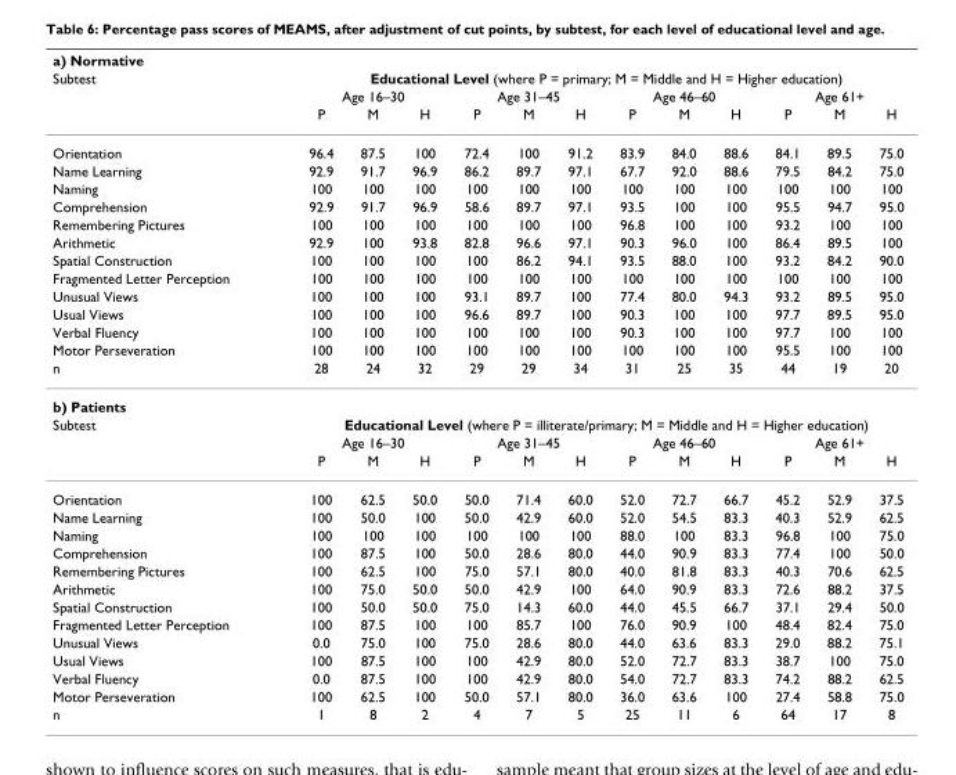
<table><thead><tr><td colspan="13">a) Normative</td></tr><tr><td rowspan="3">Subtest</td><td colspan="12">Educational Level (where P = primary; M = Middle and H = Higher education)</td></tr><tr><td colspan="3">Age 16–30</td><td colspan="3">Age 31–45</td><td colspan="3">Age 46–60</td><td colspan="3">Age 61+</td></tr><tr><td>P</td><td>M</td><td>H</td><td>P</td><td>M</td><td>H</td><td>P</td><td>M</td><td>H</td><td>P</td><td>M</td><td>H</td></tr></thead><tbody><tr><td>Orientation</td><td>96.4</td><td>87.5</td><td>100</td><td>72.4</td><td>100</td><td>91.2</td><td>83.9</td><td>84.0</td><td>88.6</td><td>84.1</td><td>89.5</td><td>75.0</td></tr><tr><td>Name Learning</td><td>92.9</td><td>91.7</td><td>96.9</td><td>86.2</td><td>89.7</td><td>97.1</td><td>67.7</td><td>92.0</td><td>88.6</td><td>79.5</td><td>84.2</td><td>75.0</td></tr><tr><td>Naming</td><td>100</td><td>100</td><td>100</td><td>100</td><td>100</td><td>100</td><td>100</td><td>100</td><td>100</td><td>100</td><td>100</td><td>100</td></tr><tr><td>Comprehension</td><td>92.9</td><td>91.7</td><td>96.9</td><td>58.6</td><td>89.7</td><td>97.1</td><td>93.5</td><td>100</td><td>100</td><td>95.5</td><td>94.7</td><td>95.0</td></tr><tr><td>Remembering Pictures</td><td>100</td><td>100</td><td>100</td><td>100</td><td>100</td><td>100</td><td>96.8</td><td>100</td><td>100</td><td>93.2</td><td>100</td><td>100</td></tr><tr><td>Arithmetic</td><td>92.9</td><td>100</td><td>93.8</td><td>82.8</td><td>96.6</td><td>97.1</td><td>90.3</td><td>96.0</td><td>100</td><td>86.4</td><td>89.5</td><td>100</td></tr><tr><td>Spatial Construction</td><td>100</td><td>100</td><td>100</td><td>100</td><td>86.2</td><td>94.1</td><td>93.5</td><td>88.0</td><td>100</td><td>93.2</td><td>84.2</td><td>90.0</td></tr><tr><td>Fragmented Letter Perception</td><td>100</td><td>100</td><td>100</td><td>100</td><td>100</td><td>100</td><td>100</td><td>100</td><td>100</td><td>100</td><td>100</td><td>100</td></tr><tr><td>Unusual Views</td><td>100</td><td>100</td><td>100</td><td>93.1</td><td>89.7</td><td>100</td><td>77.4</td><td>80.0</td><td>94.3</td><td>93.2</td><td>89.5</td><td>95.0</td></tr><tr><td>Usual Views</td><td>100</td><td>100</td><td>100</td><td>96.6</td><td>89.7</td><td>100</td><td>90.3</td><td>100</td><td>100</td><td>97.7</td><td>89.5</td><td>95.0</td></tr><tr><td>Verbal Fluency</td><td>100</td><td>100</td><td>100</td><td>100</td><td>100</td><td>100</td><td>90.3</td><td>100</td><td>100</td><td>97.7</td><td>100</td><td>100</td></tr><tr><td>Motor Perseveration</td><td>100</td><td>100</td><td>100</td><td>100</td><td>100</td><td>100</td><td>100</td><td>100</td><td>100</td><td>95.5</td><td>100</td><td>100</td></tr><tr><td>n</td><td>28</td><td>24</td><td>32</td><td>29</td><td>29</td><td>34</td><td>31</td><td>25</td><td>35</td><td>44</td><td>19</td><td>20</td></tr><tr><td colspan="13">b) Patients</td></tr><tr><td rowspan="3">Subtest</td><td colspan="12">Educational Level (where P = illiterate/primary; M = Middle and H = Higher education)</td></tr><tr><td colspan="3">Age 16–30</td><td colspan="3">Age 31–45</td><td colspan="3">Age 46–60</td><td colspan="3">Age 61+</td></tr><tr><td>P</td><td>M</td><td>H</td><td>P</td><td>M</td><td>H</td><td>P</td><td>M</td><td>H</td><td>P</td><td>M</td><td>H</td></tr><tr><td>Orientation</td><td>100</td><td>62.5</td><td>50.0</td><td>50.0</td><td>71.4</td><td>60.0</td><td>52.0</td><td>72.7</td><td>66.7</td><td>45.2</td><td>52.9</td><td>37.5</td></tr><tr><td>Name Learning</td><td>100</td><td>50.0</td><td>100</td><td>50.0</td><td>42.9</td><td>60.0</td><td>52.0</td><td>54.5</td><td>83.3</td><td>40.3</td><td>52.9</td><td>62.5</td></tr><tr><td>Naming</td><td>100</td><td>100</td><td>100</td><td>100</td><td>100</td><td>100</td><td>88.0</td><td>100</td><td>83.3</td><td>96.8</td><td>100</td><td>75.0</td></tr><tr><td>Comprehension</td><td>100</td><td>87.5</td><td>100</td><td>50.0</td><td>28.6</td><td>80.0</td><td>44.0</td><td>90.9</td><td>83.3</td><td>77.4</td><td>100</td><td>50.0</td></tr><tr><td>Remembering Pictures</td><td>100</td><td>62.5</td><td>100</td><td>75.0</td><td>57.1</td><td>80.0</td><td>40.0</td><td>81.8</td><td>83.3</td><td>40.3</td><td>70.6</td><td>62.5</td></tr><tr><td>Arithmetic</td><td>100</td><td>75.0</td><td>50.0</td><td>50.0</td><td>42.9</td><td>100</td><td>64.0</td><td>90.9</td><td>83.3</td><td>72.6</td><td>88.2</td><td>37.5</td></tr><tr><td>Spatial Construction</td><td>100</td><td>50.0</td><td>50.0</td><td>75.0</td><td>14.3</td><td>60.0</td><td>44.0</td><td>45.5</td><td>66.7</td><td>37.1</td><td>29.4</td><td>50.0</td></tr><tr><td>Fragmented Letter Perception</td><td>100</td><td>87.5</td><td>100</td><td>100</td><td>85.7</td><td>100</td><td>76.0</td><td>90.9</td><td>100</td><td>48.4</td><td>82.4</td><td>75.0</td></tr><tr><td>Unusual Views</td><td>0.0</td><td>75.0</td><td>100</td><td>75.0</td><td>28.6</td><td>80.0</td><td>44.0</td><td>63.6</td><td>83.3</td><td>29.0</td><td>88.2</td><td>75.1</td></tr><tr><td>Usual Views</td><td>100</td><td>87.5</td><td>100</td><td>100</td><td>42.9</td><td>80.0</td><td>52.0</td><td>72.7</td><td>83.3</td><td>38.7</td><td>100</td><td>75.0</td></tr><tr><td>Verbal Fluency</td><td>0.0</td><td>87.5</td><td>100</td><td>100</td><td>42.9</td><td>80.0</td><td>54.0</td><td>72.7</td><td>83.3</td><td>74.2</td><td>88.2</td><td>62.5</td></tr><tr><td>Motor Perseveration</td><td>100</td><td>62.5</td><td>100</td><td>50.0</td><td>57.1</td><td>80.0</td><td>36.0</td><td>63.6</td><td>100</td><td>27.4</td><td>58.8</td><td>75.0</td></tr><tr><td>n</td><td>1</td><td>8</td><td>2</td><td>4</td><td>7</td><td>5</td><td>25</td><td>11</td><td>6</td><td>64</td><td>17</td><td>8</td></tr></tbody></table>